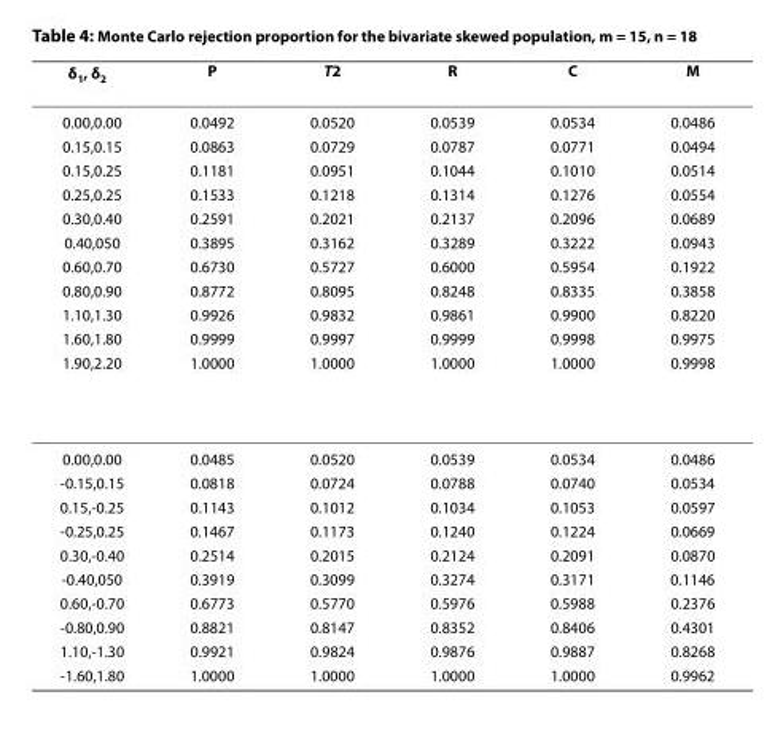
<table><thead><tr><td>δ<sub>1</sub>, δ<sub>2</sub></td><td>P</td><td>T<sup>2</sup></td><td>R</td><td>C</td><td>M</td></tr></thead><tbody><tr><td>0.00,0.00</td><td>0.0492</td><td>0.0520</td><td>0.0539</td><td>0.0534</td><td>0.0486</td></tr><tr><td>0.15,0.15</td><td>0.0863</td><td>0.0729</td><td>0.0787</td><td>0.0771</td><td>0.0494</td></tr><tr><td>0.15,0.25</td><td>0.1181</td><td>0.0951</td><td>0.1044</td><td>0.1010</td><td>0.0514</td></tr><tr><td>0.25,0.25</td><td>0.1533</td><td>0.1218</td><td>0.1314</td><td>0.1276</td><td>0.0554</td></tr><tr><td>0.30,0.40</td><td>0.2591</td><td>0.2021</td><td>0.2137</td><td>0.2096</td><td>0.0689</td></tr><tr><td>0.40,050</td><td>0.3895</td><td>0.3162</td><td>0.3289</td><td>0.3222</td><td>0.0943</td></tr><tr><td>0.60,0.70</td><td>0.6730</td><td>0.5727</td><td>0.6000</td><td>0.5954</td><td>0.1922</td></tr><tr><td>0.80,0.90</td><td>0.8772</td><td>0.8095</td><td>0.8248</td><td>0.8335</td><td>0.3858</td></tr><tr><td>1.10,1.30</td><td>0.9926</td><td>0.9832</td><td>0.9861</td><td>0.9900</td><td>0.8220</td></tr><tr><td>1.60,1.80</td><td>0.9999</td><td>0.9997</td><td>0.9999</td><td>0.9998</td><td>0.9975</td></tr><tr><td>1.90,2.20</td><td>1.0000</td><td>1.0000</td><td>1.0000</td><td>1.0000</td><td>0.9998</td></tr><tr><td>0.00,0.00</td><td>0.0485</td><td>0.0520</td><td>0.0539</td><td>0.0534</td><td>0.0486</td></tr><tr><td>-0.15,0.15</td><td>0.0818</td><td>0.0724</td><td>0.0788</td><td>0.0740</td><td>0.0534</td></tr><tr><td>0.15,-0.25</td><td>0.1143</td><td>0.1012</td><td>0.1034</td><td>0.1053</td><td>0.0597</td></tr><tr><td>-0.25,0.25</td><td>0.1467</td><td>0.1173</td><td>0.1240</td><td>0.1224</td><td>0.0669</td></tr><tr><td>0.30,-0.40</td><td>0.2514</td><td>0.2015</td><td>0.2124</td><td>0.2091</td><td>0.0870</td></tr><tr><td>-0.40,050</td><td>0.3919</td><td>0.3099</td><td>0.3274</td><td>0.3171</td><td>0.1146</td></tr><tr><td>0.60,-0.70</td><td>0.6773</td><td>0.5770</td><td>0.5976</td><td>0.5988</td><td>0.2376</td></tr><tr><td>-0.80,0.90</td><td>0.8821</td><td>0.8147</td><td>0.8352</td><td>0.8406</td><td>0.4301</td></tr><tr><td>1.10,-1.30</td><td>0.9921</td><td>0.9824</td><td>0.9876</td><td>0.9887</td><td>0.8268</td></tr><tr><td>-1.60,1.80</td><td>1.0000</td><td>1.0000</td><td>1.0000</td><td>1.0000</td><td>0.9962</td></tr></tbody></table>